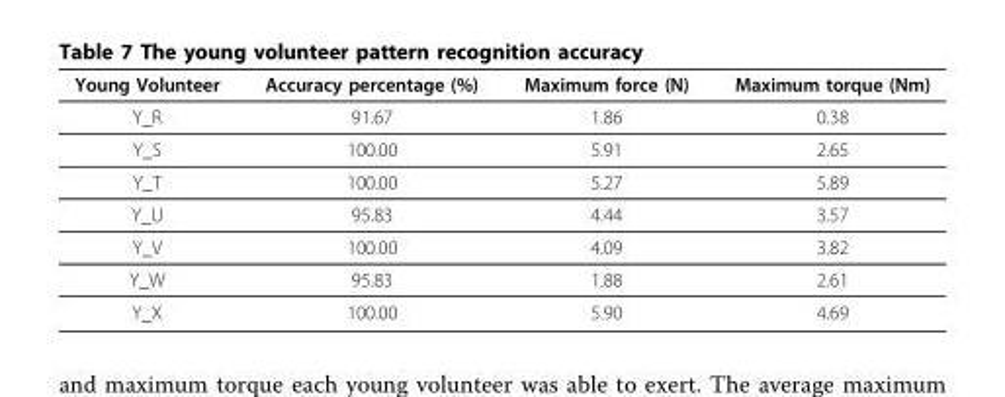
<table><thead><tr><td>Young Volunteer</td><td>Accuracy percentage (%)</td><td>Maximum force (N)</td><td>Maximum torque (Nm)</td></tr></thead><tbody><tr><td>Y_R</td><td>91.67</td><td>1.86</td><td>0.38</td></tr><tr><td>Y_S</td><td>100.00</td><td>5.91</td><td>2.65</td></tr><tr><td>Y_T</td><td>100.00</td><td>5.27</td><td>5.89</td></tr><tr><td>Y_U</td><td>95.83</td><td>4.44</td><td>3.57</td></tr><tr><td>Y_V</td><td>100.00</td><td>4.09</td><td>3.82</td></tr><tr><td>Y_W</td><td>95.83</td><td>1.88</td><td>2.61</td></tr><tr><td>Y_X</td><td>100.00</td><td>5.90</td><td>4.69</td></tr></tbody></table>